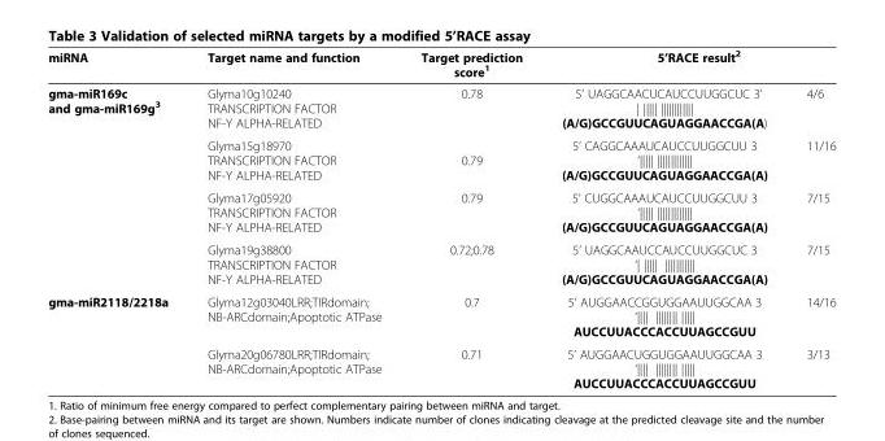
<table><tbody><tr><td>miRNA</td><td>Target name and function</td><td>Target prediction score<sup>1</sup></td><td colspan="2">5’RACE result<sup>2</sup></td></tr><tr><td rowspan="4">gma-miR169c and gma-miR169g3</td><td>Glyma10g10240 TRANSCRIPTION FACTOR NF-Y ALPHA-RELATED</td><td>0.78</td><td>5’ UAGGCAACUCAUCCUUGGCUC 3’ | ||||| |||||||||||| (A/G)GCCGUUCAGUAGGAACCGA(A)</td><td>4/6</td></tr><tr><td>Glyma15g18970 TRANSCRIPTION FACTOR NF-Y ALPHA-RELATED</td><td>0.79</td><td>5’ CAGGCAAAUCAUCCUUGGCUU 3 ’||||| ||||||||||||| (A/G)GCCGUUCAGUAGGAACCGA(A)</td><td>11/16</td></tr><tr><td>Glyma17g05920 TRANSCRIPTION FACTOR NF-Y ALPHA-RELATED</td><td>0.79</td><td>5’ CUGGCAAAUCAUCCUUGGCUU 3 ’||||| ||||||||||||| (A/G)GCCGUUCAGUAGGAACCGA(A)</td><td>7/15</td></tr><tr><td>Glyma19g38800 TRANSCRIPTION FACTOR NF-Y ALPHA-RELATED</td><td>0.72;0.78</td><td>5’ UAGGCAAUCCAUCCUUGGCUC 3 ’| ||||| ||||||||||| (A/G)GCCGUUCAGUAGGAACCGA(A)</td><td>7/15</td></tr><tr><td rowspan="2">gma-miR2118/2218a</td><td>Glyma12g03040LRR;TIRdomain; NB-ARCdomain;Apoptotic ATPase</td><td>0.7</td><td>5’ AUGGAACCGGUGGAAUUGGCAA 3 ’|||| |||||||| ||||| AUCCUUACCCACCUUAGCCGUU</td><td>14/16</td></tr><tr><td>Glyma20g06780LRR;TIRdomain; NB-ARCdomain;Apoptotic ATPase</td><td>0.71</td><td>5’ AUGGAACUGGUGGAAUUGGCAA 3 ’|||| |||||||| ||||| AUCCUUACCCACCUUAGCCGUU</td><td>3/13</td></tr></tbody></table>